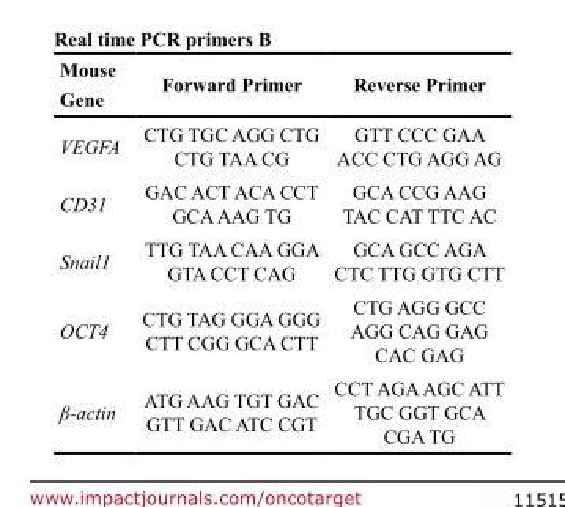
<table><thead><tr><td>Mouse Gene</td><td>Forward Primer</td><td>Reverse Primer</td></tr></thead><tbody><tr><td>VEGFA</td><td>CTG TGC AGG CTG CTG TAA CG</td><td>GTT CCC GAA ACC CTG AGG AG</td></tr><tr><td>CD31</td><td>GAC ACT ACA CCT GCA AAG TG</td><td>GCA CCG AAG TAC CAT TTC AC</td></tr><tr><td>Snail1</td><td>TTG TAA CAA GGA GTA CCT CAG</td><td>GCA GCC AGA CTC TTG GTG CTT</td></tr><tr><td>OCT4</td><td>CTG TAG GGA GGG CTT CGG GCA CTT</td><td>CTG AGG GCC AGG CAG GAG CAC GAG</td></tr><tr><td>β-actin</td><td>ATG AAG TGT GAC GTT GAC ATC CGT</td><td>CCT AGA AGC ATT TGC GGT GCA CGA TG</td></tr></tbody></table>